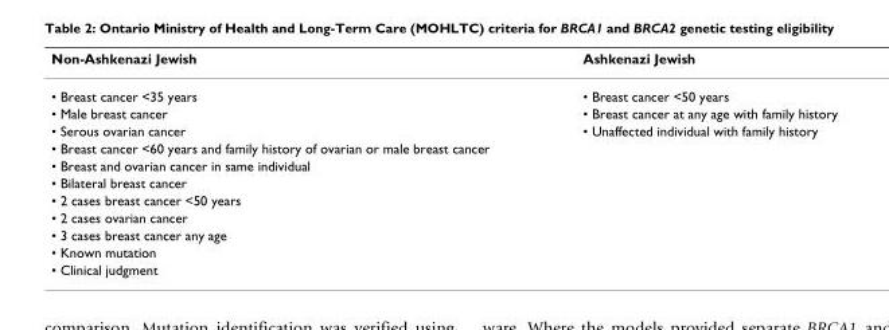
<table><thead><tr><td>Non-Ashkenazi Jewish</td><td>Ashkenazi Jewish</td></tr></thead><tbody><tr><td>• Breast cancer &lt;35 years</td><td>• Breast cancer &lt;50 years</td></tr><tr><td>• Male breast cancer</td><td>• Breast cancer at any age with family history</td></tr><tr><td>• Serous ovarian cancer</td><td>• Unaffected individual with family history</td></tr><tr><td colspan="2">• Breast cancer &lt;60 years and family history of ovarian or male breast cancer</td></tr><tr><td colspan="2">• Breast and ovarian cancer in same individual</td></tr><tr><td colspan="2">• Bilateral breast cancer</td></tr><tr><td colspan="2">• 2 cases breast cancer &lt;50 years</td></tr><tr><td colspan="2">• 2 cases ovarian cancer</td></tr><tr><td colspan="2">• 3 cases breast cancer any age</td></tr><tr><td colspan="2">• Known mutation</td></tr><tr><td>• Clinical judgment</td><td></td></tr></tbody></table>